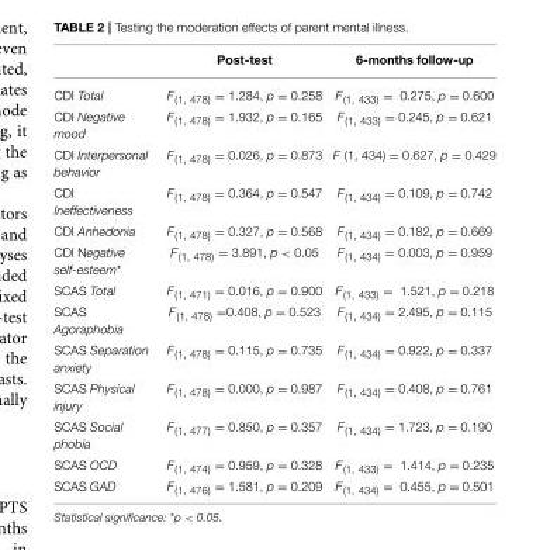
<table><thead><tr><td></td><td>Post-test</td><td>6-months follow-up</td></tr></thead><tbody><tr><td>CDI Total</td><td>F<sub>(1, 478)</sub> = 1.284, p = 0.258</td><td>F<sub>(1, 433)</sub> = 0.275, p = 0.600</td></tr><tr><td>CDI Negative mood</td><td>F<sub>(1, 478)</sub> = 1.932, p = 0.165</td><td>F<sub>(1, 433)</sub> = 0.245, p = 0.621</td></tr><tr><td>CDI Interpersonal behavior</td><td>F<sub>(1, 478)</sub> = 0.026, p = 0.873</td><td>F (1, 434) = 0.627, p = 0.429</td></tr><tr><td>CDI Ineffectiveness</td><td>F<sub>(1, 478)</sub> = 0.364, p = 0.547</td><td>F<sub>(1, 434)</sub> = 0.109, p = 0.742</td></tr><tr><td>CDI Anhedonia</td><td>F<sub>(1, 478)</sub> = 0.327, p = 0.568</td><td>F<sub>(1, 434)</sub> = 0.182, p = 0.669</td></tr><tr><td>CDI Negative self-esteem*</td><td>F<sub>(1, 478)</sub> = 3.891, p &lt; 0.05</td><td>F<sub>(1, 434)</sub> = 0.003, p = 0.959</td></tr><tr><td>SCAS Total</td><td>F<sub>(1, 471)</sub> = 0.016, p = 0.900</td><td>F<sub>(1, 433)</sub> = 1.521, p = 0.218</td></tr><tr><td>SCAS Agoraphobia</td><td>F<sub>(1, 478)</sub> =0.408, p = 0.523</td><td>F<sub>(1, 434)</sub> = 2.495, p = 0.115</td></tr><tr><td>SCAS Separation anxiety</td><td>F<sub>(1, 478)</sub> = 0.115, p = 0.735</td><td>F<sub>(1, 434)</sub> = 0.922, p = 0.337</td></tr><tr><td>SCAS Physical injury</td><td>F<sub>(1, 478)</sub> = 0.000, p = 0.987</td><td>F<sub>(1, 434)</sub> = 0.408, p = 0.761</td></tr><tr><td>SCAS Social phobia</td><td>F<sub>(1, 477)</sub> = 0.850, p = 0.357</td><td>F<sub>(1, 434)</sub> = 1.723, p = 0.190</td></tr><tr><td>SCAS OCD</td><td>F<sub>(1, 474)</sub> = 0.959, p = 0.328</td><td>F<sub>(1, 433)</sub> = 1.414, p = 0.235</td></tr><tr><td>SCAS GAD</td><td>F<sub>(1, 476)</sub> = 1.581, p = 0.209</td><td>F<sub>(1, 434)</sub> = 0.455, p = 0.501</td></tr></tbody></table>